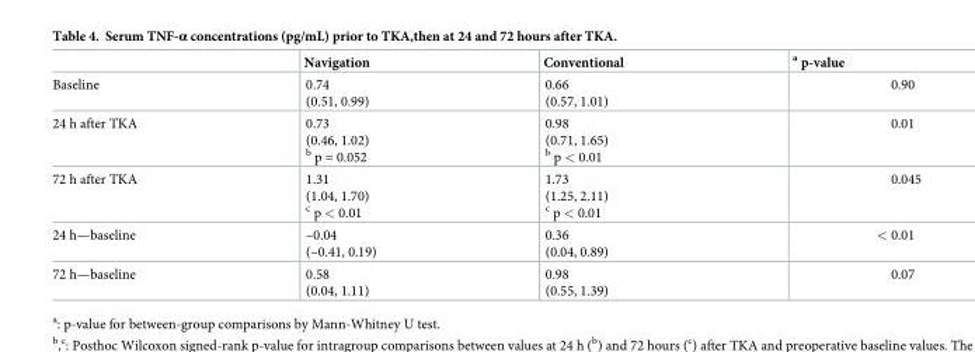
<table><thead><tr><td></td><td>Navigation</td><td>Conventional</td><td><sup>a</sup> p-value</td></tr></thead><tbody><tr><td>Baseline</td><td>0.74 (0.51, 0.99)</td><td>0.66 (0.57, 1.01)</td><td>0.90</td></tr><tr><td>24 h after TKA</td><td>0.73 (0.46, 1.02) <sup>b</sup> p = 0.052</td><td>0.98 (0.71, 1.65) <sup>b</sup> p &lt; 0.01</td><td>0.01</td></tr><tr><td>72 h after TKA</td><td>1.31 (1.04, 1.70) <sup>c</sup> p &lt; 0.01</td><td>1.73 (1.25, 2.11) <sup>c</sup> p &lt; 0.01</td><td>0.045</td></tr><tr><td>24 h—baseline</td><td>–0.04 (–0.41, 0.19)</td><td>0.36 (0.04, 0.89)</td><td>&lt; 0.01</td></tr><tr><td>72 h—baseline</td><td>0.58 (0.04, 1.11)</td><td>0.98 (0.55, 1.39)</td><td>0.07</td></tr></tbody></table>